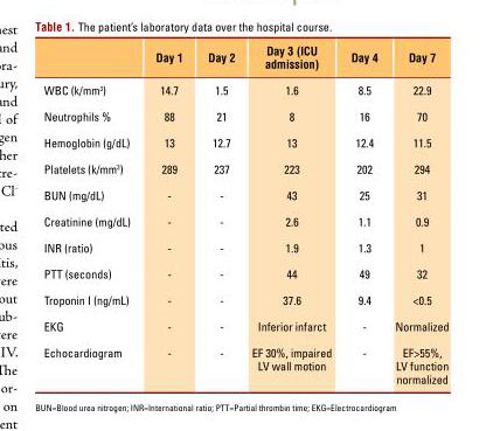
<table><thead><tr><td></td><td>Day 1</td><td>Day 2</td><td>Day 3 (ICU admission)</td><td>Day 4</td><td>Day 7</td></tr></thead><tbody><tr><td>WBC (k/mm<sup>3</sup>)</td><td>14.7</td><td>1.5</td><td>1.6</td><td>8.5</td><td>22.9</td></tr><tr><td>Neutrophils %</td><td>88</td><td>21</td><td>8</td><td>16</td><td>70</td></tr><tr><td>Hemoglobin (g/dL)</td><td>13</td><td>12.7</td><td>13</td><td>12.4</td><td>11.5</td></tr><tr><td>Platelets (k/mm<sup>3</sup>)</td><td>289</td><td>237</td><td>223</td><td>202</td><td>294</td></tr><tr><td>BUN (mg/dL)</td><td>-</td><td>-</td><td>43</td><td>25</td><td>31</td></tr><tr><td>Creatinine (mg/dL)</td><td>-</td><td>-</td><td>2.6</td><td>1.1</td><td>0.9</td></tr><tr><td>INR (ratio)</td><td>-</td><td>-</td><td>1.9</td><td>1.3</td><td>1</td></tr><tr><td>PTT (seconds)</td><td>-</td><td>-</td><td>44</td><td>49</td><td>32</td></tr><tr><td>Troponin I (ng/mL)</td><td>-</td><td>-</td><td>37.6</td><td>9.4</td><td>&lt;0.5</td></tr><tr><td>EKG</td><td>-</td><td>-</td><td>Inferior infarct</td><td>-</td><td>Normalized</td></tr><tr><td>Echocardiogram</td><td>-</td><td>-</td><td>EF 30%, impaired LV wall motion</td><td>-</td><td>EF&gt;55%, LV function normalized</td></tr></tbody></table>